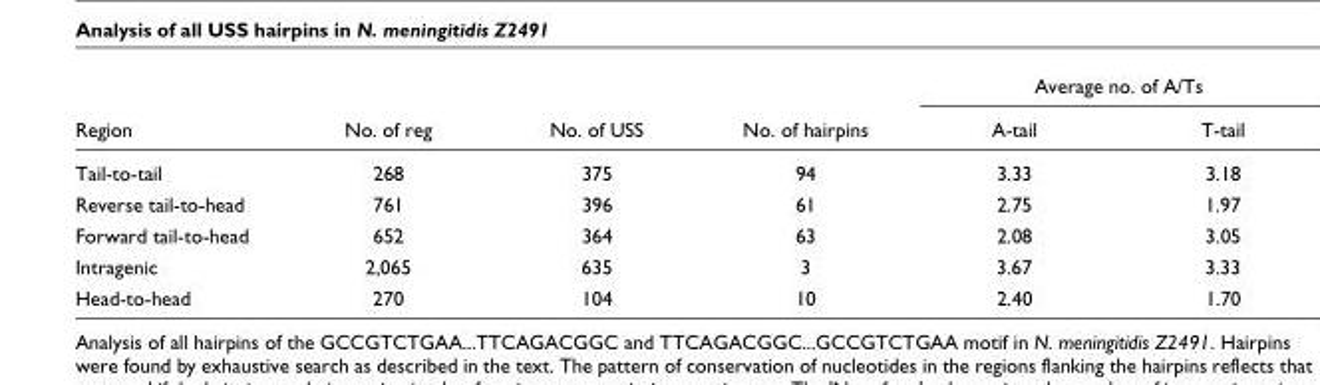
<table><thead><tr><td rowspan="2">Region</td><td rowspan="2">No. of reg</td><td rowspan="2">No. of USS</td><td rowspan="2">No. of hairpins</td><td colspan="2">Average no. of A/Ts</td></tr><tr><td>A-tail</td><td>T-tail</td></tr></thead><tbody><tr><td>Tail-to-tail</td><td>268</td><td>375</td><td>94</td><td>3.33</td><td>3.18</td></tr><tr><td>Reverse tail-to-head</td><td>761</td><td>396</td><td>61</td><td>2.75</td><td>1.97</td></tr><tr><td>Forward tail-to-head</td><td>652</td><td>364</td><td>63</td><td>2.08</td><td>3.05</td></tr><tr><td>Intragenic</td><td>2,065</td><td>635</td><td>3</td><td>3.67</td><td>3.33</td></tr><tr><td>Head-to-head</td><td>270</td><td>104</td><td>10</td><td>2.40</td><td>1.70</td></tr></tbody></table>